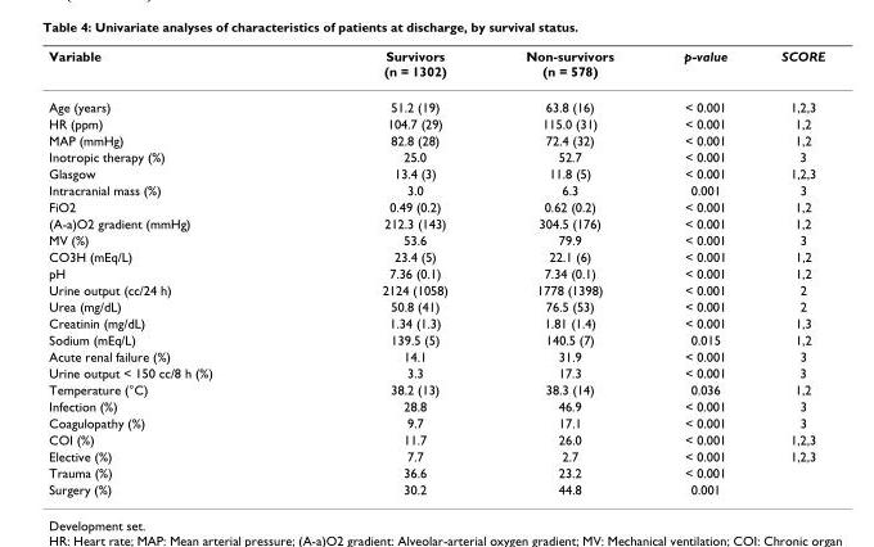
<table><thead><tr><td>Variable</td><td>Survivors (n = 1302)</td><td>Non-survivors (n = 578)</td><td>p-value</td><td>SCORE</td></tr></thead><tbody><tr><td>Age (years)</td><td>51.2 (19)</td><td>63.8 (16)</td><td>&lt; 0.001</td><td>1,2,3</td></tr><tr><td>HR (ppm)</td><td>104.7 (29)</td><td>115.0 (31)</td><td>&lt; 0.001</td><td>1,2</td></tr><tr><td>MAP (mmHg)</td><td>82.8 (28)</td><td>72.4 (32)</td><td>&lt; 0.001</td><td>1,2</td></tr><tr><td>Inotropic therapy (%)</td><td>25.0</td><td>52.7</td><td>&lt; 0.001</td><td>3</td></tr><tr><td>Glasgow</td><td>13.4 (3)</td><td>11.8 (5)</td><td>&lt; 0.001</td><td>1,2,3</td></tr><tr><td>Intracranial mass (%)</td><td>3.0</td><td>6.3</td><td>0.001</td><td>3</td></tr><tr><td>FiO2</td><td>0.49 (0.2)</td><td>0.62 (0.2)</td><td>&lt; 0.001</td><td>1,2</td></tr><tr><td>(A-a)O2 gradient (mmHg)</td><td>212.3 (143)</td><td>304.5 (176)</td><td>&lt; 0.001</td><td>1,2</td></tr><tr><td>MV (%)</td><td>53.6</td><td>79.9</td><td>&lt; 0.001</td><td>3</td></tr><tr><td>CO3H (mEq/L)</td><td>23.4 (5)</td><td>22.1 (6)</td><td>&lt; 0.001</td><td>1,2</td></tr><tr><td>pH</td><td>7.36 (0.1)</td><td>7.34 (0.1)</td><td>&lt; 0.001</td><td>1,2</td></tr><tr><td>Urine output (cc/24 h)</td><td>2124 (1058)</td><td>1778 (1398)</td><td>&lt; 0.001</td><td>2</td></tr><tr><td>Urea (mg/dL)</td><td>50.8 (41)</td><td>76.5 (53)</td><td>&lt; 0.001</td><td>2</td></tr><tr><td>Creatinin (mg/dL)</td><td>1.34 (1.3)</td><td>1.81 (1.4)</td><td>&lt; 0.001</td><td>1,3</td></tr><tr><td>Sodium (mEq/L)</td><td>139.5 (5)</td><td>140.5 (7)</td><td>0.015</td><td>1,2</td></tr><tr><td>Acute renal failure (%)</td><td>14.1</td><td>31.9</td><td>&lt; 0.001</td><td>3</td></tr><tr><td>Urine output &lt; 150 cc/8 h (%)</td><td>3.3</td><td>17.3</td><td>&lt; 0.001</td><td>3</td></tr><tr><td>Temperature (°C)</td><td>38.2 (13)</td><td>38.3 (14)</td><td>0.036</td><td>1,2</td></tr><tr><td>Infection (%)</td><td>28.8</td><td>46.9</td><td>&lt; 0.001</td><td>3</td></tr><tr><td>Coagulopathy (%)</td><td>9.7</td><td>17.1</td><td>&lt; 0.001</td><td>3</td></tr><tr><td>COI (%)</td><td>11.7</td><td>26.0</td><td>&lt; 0.001</td><td>1,2,3</td></tr><tr><td>Elective (%)</td><td>7.7</td><td>2.7</td><td>&lt; 0.001</td><td>1,2,3</td></tr><tr><td>Trauma (%)</td><td>36.6</td><td>23.2</td><td>&lt; 0.001</td><td></td></tr><tr><td>Surgery (%)</td><td>30.2</td><td>44.8</td><td>0.001</td><td></td></tr></tbody></table>